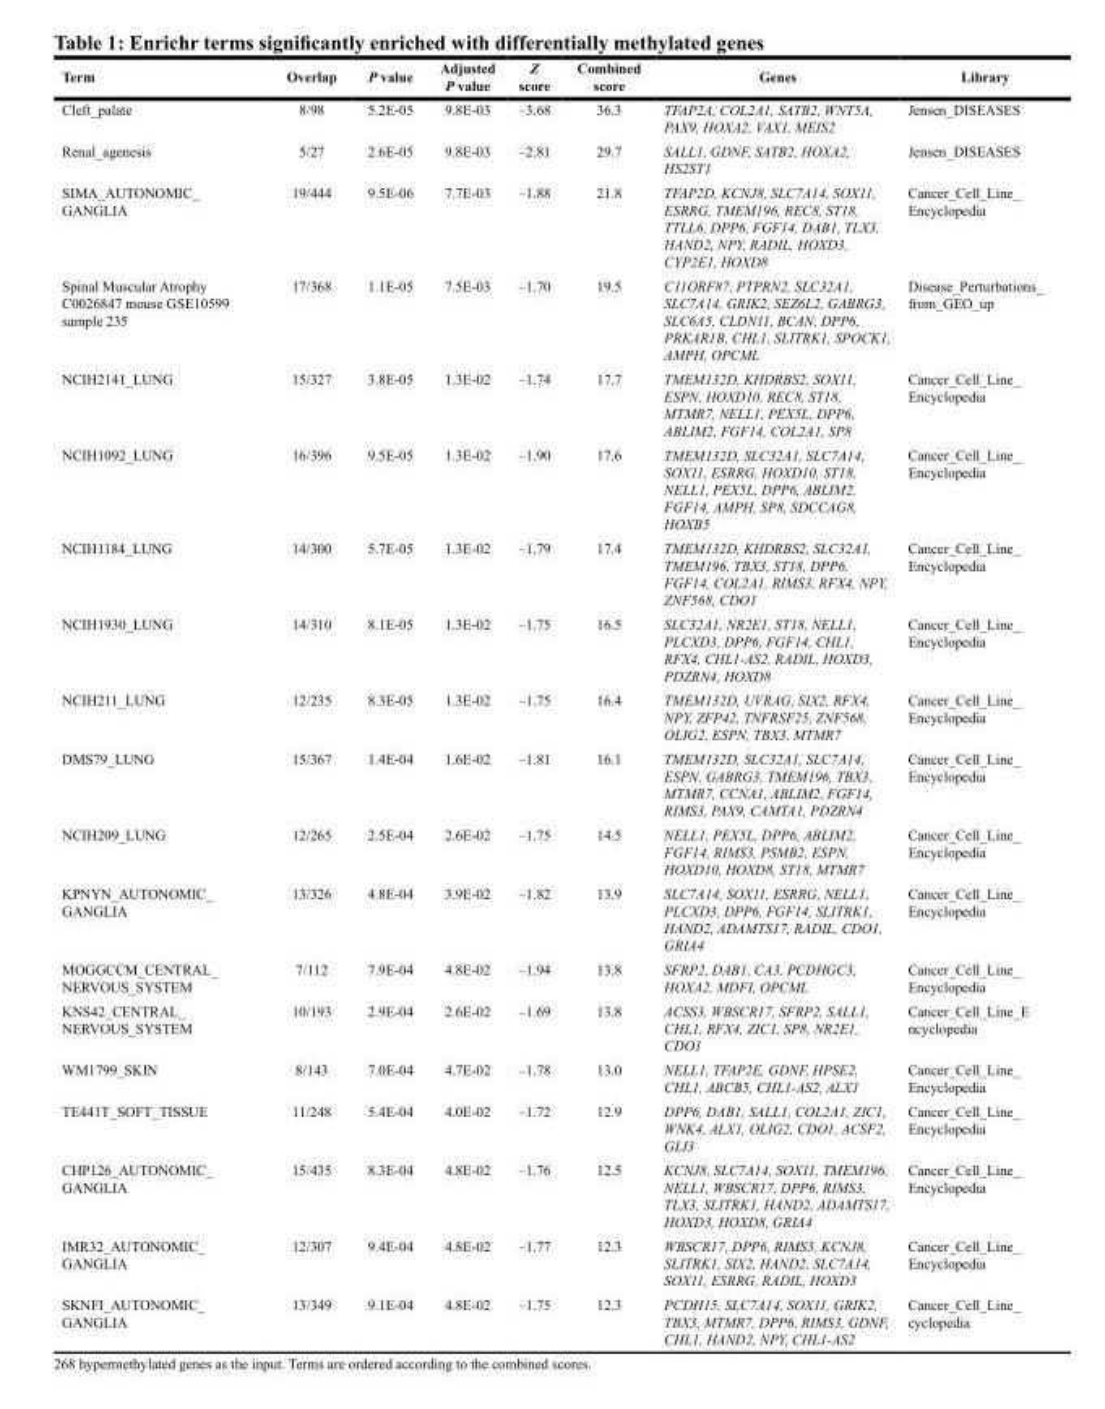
<table><thead><tr><td>Term</td><td>Overlap</td><td>P value</td><td>Adjusted P value</td><td>Z score</td><td>Combined score</td><td>Genes</td><td>Library</td></tr></thead><tbody><tr><td>Cleft_palate</td><td>8/98</td><td>5.2E-05</td><td>9.8E-03</td><td>–3.68</td><td>36.3</td><td>TFAP2A, COL2A1, SATB2, WNT5A, PAX9, HOXA2, VAX1, MEIS2</td><td>Jensen_DISEASES</td></tr><tr><td>Renal_agenesis</td><td>5/27</td><td>2.6E-05</td><td>9.8E-03</td><td>–2.81</td><td>29.7</td><td>SALL1, GDNF, SATB2, HOXA2, HS2ST1</td><td>Jensen_DISEASES</td></tr><tr><td>SIMA_AUTONOMIC_ GANGLIA</td><td>19/444</td><td>9.5E-06</td><td>7.7E-03</td><td>–1.88</td><td>21.8</td><td>TFAP2D, KCNJ8, SLC7A14, SOX11, ESRRG, TMEM196, REC8, ST18, TTLL6, DPP6, FGF14, DAB1, TLX3, HAND2, NPY, RADIL, HOXD3, CYP2E1, HOXD8</td><td>Cancer_Cell_Line_ Encyclopedia</td></tr><tr><td>Spinal Muscular Atrophy C0026847 mouse GSE10599 sample 235</td><td>17/368</td><td>1.1E-05</td><td>7.5E-03</td><td>–1.70</td><td>19.5</td><td>C11ORF87, PTPRN2, SLC32A1, SLC7A14, GRIK2, SEZ6L2, GABRG3, SLC6A5, CLDN11, BCAN, DPP6, PRKAR1B, CHL1, SLITRK1, SPOCK1, AMPH, OPCML</td><td>Disease_Perturbations_ from_GEO_up</td></tr><tr><td>NCIH2141_LUNG</td><td>15/327</td><td>3.8E-05</td><td>1.3E-02</td><td>–1.74</td><td>17.7</td><td>TMEM132D, KHDRBS2, SOX11, ESPN, HOXD10, REC8, ST18, MTMR7, NELL1, PEX5L, DPP6, ABLIM2, FGF14, COL2A1, SP8</td><td>Cancer_Cell_Line_ Encyclopedia</td></tr><tr><td>NCIH1092_LUNG</td><td>16/396</td><td>9.5E-05</td><td>1.3E-02</td><td>–1.90</td><td>17.6</td><td>TMEM132D, SLC32A1, SLC7A14, SOX11, ESRRG, HOXD10, ST18, NELL1, PEX5L, DPP6, ABLIM2, FGF14, AMPH, SP8, SDCCAG8, HOXB5</td><td>Cancer_Cell_Line_ Encyclopedia</td></tr><tr><td>NCIH1184_LUNG</td><td>14/300</td><td>5.7E-05</td><td>1.3E-02</td><td>–1.79</td><td>17.4</td><td>TMEM132D, KHDRBS2, SLC32A1, TMEM196, TBX3, ST18, DPP6, FGF14, COL2A1, RIMS3, RFX4, NPY, ZNF568, CDO1</td><td>Cancer_Cell_Line_ Encyclopedia</td></tr><tr><td>NCIH1930_LUNG</td><td>14/310</td><td>8.1E-05</td><td>1.3E-02</td><td>–1.75</td><td>16.5</td><td>SLC32A1, NR2E1, ST18, NELL1, PLCXD3, DPP6, FGF14, CHL1, RFX4, CHL1-AS2, RADIL, HOXD3, PDZRN4, HOXD8</td><td>Cancer_Cell_Line_ Encyclopedia</td></tr><tr><td>NCIH211_LUNG</td><td>12/235</td><td>8.3E-05</td><td>1.3E-02</td><td>–1.75</td><td>16.4</td><td>TMEM132D, UVRAG, SIX2, RFX4, NPY, ZFP42, TNFRSF25, ZNF568, OLIG2, ESPN, TBX3, MTMR7</td><td>Cancer_Cell_Line_ Encyclopedia</td></tr><tr><td>DMS79_LUNG</td><td>15/367</td><td>1.4E-04</td><td>1.6E-02</td><td>–1.81</td><td>16.1</td><td>TMEM132D, SLC32A1, SLC7A14, ESPN, GABRG3, TMEM196, TBX3, MTMR7, CCNA1, ABLIM2, FGF14, RIMS3, PAX9, CAMTA1, PDZRN4</td><td>Cancer_Cell_Line_ Encyclopedia</td></tr><tr><td>NCIH209_LUNG</td><td>12/265</td><td>2.5E-04</td><td>2.6E-02</td><td>–1.75</td><td>14.5</td><td>NELL1, PEX5L, DPP6, ABLIM2, FGF14, RIMS3, PSMB2, ESPN, HOXD10, HOXD8, ST18, MTMR7</td><td>Cancer_Cell_Line_ Encyclopedia</td></tr><tr><td>KPNYN_AUTONOMIC_ GANGLIA</td><td>13/326</td><td>4.8E-04</td><td>3.9E-02</td><td>–1.82</td><td>13.9</td><td>SLC7A14, SOX11, ESRRG, NELL1, PLCXD3, DPP6, FGF14, SLITRK1, HAND2, ADAMTS17, RADIL, CDO1, GRIA4</td><td>Cancer_Cell_Line_ Encyclopedia</td></tr><tr><td>MOGGCCM_CENTRAL_ NERVOUS_SYSTEM</td><td>7/112</td><td>7.9E-04</td><td>4.8E-02</td><td>–1.94</td><td>13.8</td><td>SFRP2, DAB1, CA3, PCDHGC3, HOXA2, MDFI, OPCML</td><td>Cancer_Cell_Line_ Encyclopedia</td></tr><tr><td>KNS42_CENTRAL_ NERVOUS_SYSTEM</td><td>10/193</td><td>2.9E-04</td><td>2.6E-02</td><td>–1.69</td><td>13.8</td><td>ACSS3, WBSCR17, SFRP2, SALL1, CHL1, RFX4, ZIC1, SP8, NR2E1, CDO1</td><td>Cancer_Cell_Line_E ncyclopedia</td></tr><tr><td>WM1799_SKIN</td><td>8/143</td><td>7.0E-04</td><td>4.7E-02</td><td>–1.78</td><td>13.0</td><td>NELL1, TFAP2E, GDNF, HPSE2, CHL1, ABCB5, CHL1-AS2, ALX1</td><td>Cancer_Cell_Line_ Encyclopedia</td></tr><tr><td>TE441T_SOFT_TISSUE</td><td>11/248</td><td>5.4E-04</td><td>4.0E-02</td><td>–1.72</td><td>12.9</td><td>DPP6, DAB1, SALL1, COL2A1, ZIC1, WNK4, ALX1, OLIG2, CDO1, ACSF2, GLI3</td><td>Cancer_Cell_Line_ Encyclopedia</td></tr><tr><td>CHP126_AUTONOMIC_ GANGLIA</td><td>15/435</td><td>8.3E-04</td><td>4.8E-02</td><td>–1.76</td><td>12.5</td><td>KCNJ8, SLC7A14, SOX11, TMEM196, NELL1, WBSCR17, DPP6, RIMS3, TLX3, SLITRK1, HAND2, ADAMTS17, HOXD3, HOXD8, GRIA4</td><td>Cancer_Cell_Line_ Encyclopedia</td></tr><tr><td>IMR32_AUTONOMIC_ GANGLIA</td><td>12/307</td><td>9.4E-04</td><td>4.8E-02</td><td>–1.77</td><td>12.3</td><td>WBSCR17, DPP6, RIMS3, KCNJ8, SLITRK1, SIX2, HAND2, SLC7A14, SOX11, ESRRG, RADIL, HOXD3</td><td>Cancer_Cell_Line_ Encyclopedia</td></tr><tr><td>SKNFI_AUTONOMIC_ GANGLIA</td><td>13/349</td><td>9.1E-04</td><td>4.8E-02</td><td>–1.75</td><td>12.3</td><td>PCDH15, SLC7A14, SOX11, GRIK2, TBX3, MTMR7, DPP6, RIMS3, GDNF, CHL1, HAND2, NPY, CHL1-AS2</td><td>Cancer_Cell_Line_ cyclopedia</td></tr></tbody></table>